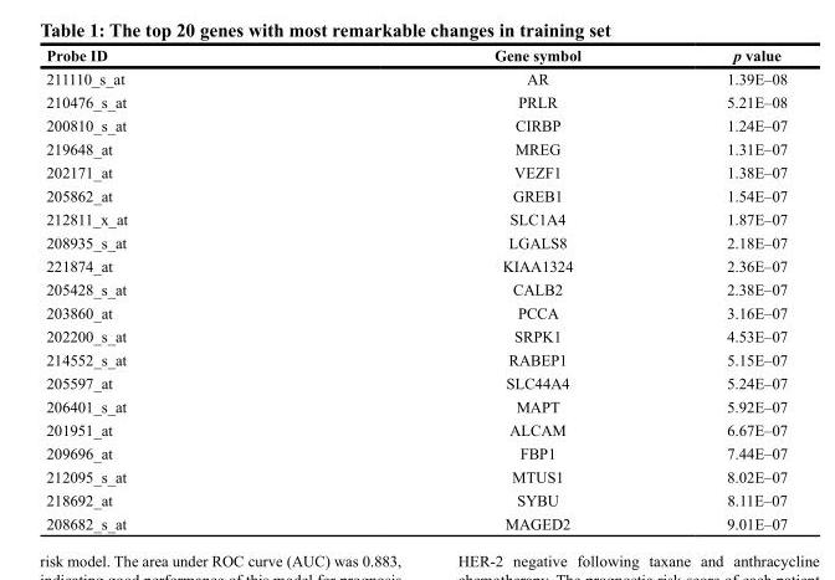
<table><thead><tr><td>Probe ID</td><td>Gene symbol</td><td>p value</td></tr></thead><tbody><tr><td>211110_s_at</td><td>AR</td><td>1.39E–08</td></tr><tr><td>210476_s_at</td><td>PRLR</td><td>5.21E–08</td></tr><tr><td>200810_s_at</td><td>CIRBP</td><td>1.24E–07</td></tr><tr><td>219648_at</td><td>MREG</td><td>1.31E–07</td></tr><tr><td>202171_at</td><td>VEZF1</td><td>1.38E–07</td></tr><tr><td>205862_at</td><td>GREB1</td><td>1.54E–07</td></tr><tr><td>212811_x_at</td><td>SLC1A4</td><td>1.87E–07</td></tr><tr><td>208935_s_at</td><td>LGALS8</td><td>2.18E–07</td></tr><tr><td>221874_at</td><td>KIAA1324</td><td>2.36E–07</td></tr><tr><td>205428_s_at</td><td>CALB2</td><td>2.38E–07</td></tr><tr><td>203860_at</td><td>PCCA</td><td>3.16E–07</td></tr><tr><td>202200_s_at</td><td>SRPK1</td><td>4.53E–07</td></tr><tr><td>214552_s_at</td><td>RABEP1</td><td>5.15E–07</td></tr><tr><td>205597_at</td><td>SLC44A4</td><td>5.24E–07</td></tr><tr><td>206401_s_at</td><td>MAPT</td><td>5.92E–07</td></tr><tr><td>201951_at</td><td>ALCAM</td><td>6.67E–07</td></tr><tr><td>209696_at</td><td>FBP1</td><td>7.44E–07</td></tr><tr><td>212095_s_at</td><td>MTUS1</td><td>8.02E–07</td></tr><tr><td>218692_at</td><td>SYBU</td><td>8.11E–07</td></tr><tr><td>208682_s_at</td><td>MAGED2</td><td>9.01E–07</td></tr></tbody></table>